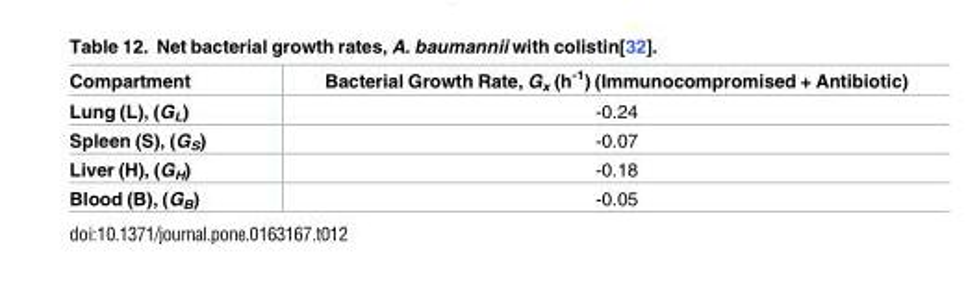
<table><thead><tr><td>Compartment</td><td>Bacterial Growth Rate, G<sub>x</sub> (h<sup>-1</sup>) (Immunocompromised + Antibiotic)</td></tr></thead><tbody><tr><td>Lung (L), (G<sub>L</sub>)</td><td>-0.24</td></tr><tr><td>Spleen (S), (G<sub>S</sub>)</td><td>-0.07</td></tr><tr><td>Liver (H), (G<sub>H</sub>)</td><td>-0.18</td></tr><tr><td>Blood (B), (G<sub>B</sub>)</td><td>-0.05</td></tr></tbody></table>